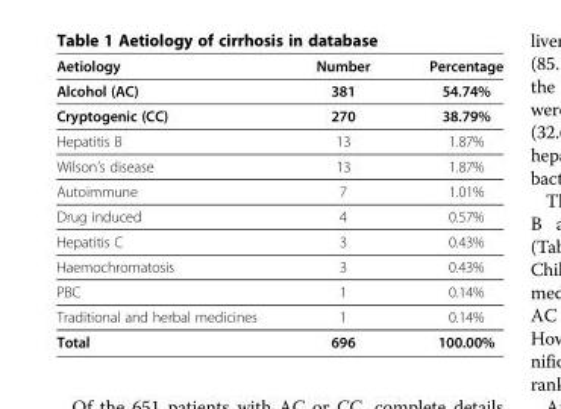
<table><thead><tr><td>Aetiology</td><td>Number</td><td>Percentage</td></tr></thead><tbody><tr><td>Alcohol (AC)</td><td>381</td><td>54.74%</td></tr><tr><td>Cryptogenic (CC)</td><td>270</td><td>38.79%</td></tr><tr><td>Hepatitis B</td><td>13</td><td>1.87%</td></tr><tr><td>Wilson’s disease</td><td>13</td><td>1.87%</td></tr><tr><td>Autoimmune</td><td>7</td><td>1.01%</td></tr><tr><td>Drug induced</td><td>4</td><td>0.57%</td></tr><tr><td>Hepatitis C</td><td>3</td><td>0.43%</td></tr><tr><td>Haemochromatosis</td><td>3</td><td>0.43%</td></tr><tr><td>PBC</td><td>1</td><td>0.14%</td></tr><tr><td>Traditional and herbal medicines</td><td>1</td><td>0.14%</td></tr><tr><td>Total</td><td>696</td><td>100.00%</td></tr></tbody></table>